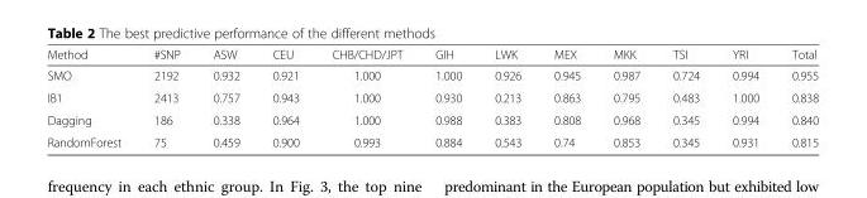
<table><thead><tr><td>Method</td><td>#SNP</td><td>ASW</td><td>CEU</td><td>CHB/CHD/JPT</td><td>GIH</td><td>LWK</td><td>MEX</td><td>MKK</td><td>TSI</td><td>YRI</td><td>Total</td></tr></thead><tbody><tr><td>SMO</td><td>2192</td><td>0.932</td><td>0.921</td><td>1.000</td><td>1.000</td><td>0.926</td><td>0.945</td><td>0.987</td><td>0.724</td><td>0.994</td><td>0.955</td></tr><tr><td>IB1</td><td>2413</td><td>0.757</td><td>0.943</td><td>1.000</td><td>0.930</td><td>0.213</td><td>0.863</td><td>0.795</td><td>0.483</td><td>1.000</td><td>0.838</td></tr><tr><td>Dagging</td><td>186</td><td>0.338</td><td>0.964</td><td>1.000</td><td>0.988</td><td>0.383</td><td>0.808</td><td>0.968</td><td>0.345</td><td>0.994</td><td>0.840</td></tr><tr><td>RandomForest</td><td>75</td><td>0.459</td><td>0.900</td><td>0.993</td><td>0.884</td><td>0.543</td><td>0.74</td><td>0.853</td><td>0.345</td><td>0.931</td><td>0.815</td></tr></tbody></table>